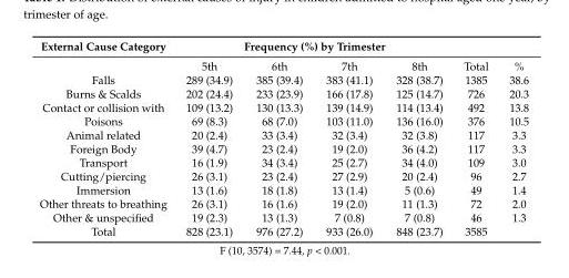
<table><thead><tr><td rowspan="2">External Cause Category</td><td colspan="4">Frequency (%) by Trimester</td><td rowspan="2">Total</td><td rowspan="2">%</td></tr><tr><td>5th</td><td>6th</td><td>7th</td><td>8th</td></tr></thead><tbody><tr><td>Falls</td><td>289 (34.9)</td><td>385 (39.4)</td><td>383 (41.1)</td><td>328 (38.7)</td><td>1385</td><td>38.6</td></tr><tr><td>Burns &amp; Scalds</td><td>202 (24.4)</td><td>233 (23.9)</td><td>166 (17.8)</td><td>125 (14.7)</td><td>726</td><td>20.3</td></tr><tr><td>Contact or collision with</td><td>109 (13.2)</td><td>130 (13.3)</td><td>139 (14.9)</td><td>114 (13.4)</td><td>492</td><td>13.8</td></tr><tr><td>Poisons</td><td>69 (8.3)</td><td>68 (7.0)</td><td>103 (11.0)</td><td>136 (16.0)</td><td>376</td><td>10.5</td></tr><tr><td>Animal related</td><td>20 (2.4)</td><td>33 (3.4)</td><td>32 (3.4)</td><td>32 (3.8)</td><td>117</td><td>3.3</td></tr><tr><td>Foreign Body</td><td>39 (4.7)</td><td>23 (2.4)</td><td>19 (2.0)</td><td>36 (4.2)</td><td>117</td><td>3.3</td></tr><tr><td>Transport</td><td>16 (1.9)</td><td>34 (3.4)</td><td>25 (2.7)</td><td>34 (4.0)</td><td>109</td><td>3.0</td></tr><tr><td>Cutting/piercing</td><td>26 (3.1)</td><td>23 (2.4)</td><td>27 (2.9)</td><td>20 (2.4)</td><td>96</td><td>2.7</td></tr><tr><td>Immersion</td><td>13 (1.6)</td><td>18 (1.8)</td><td>13 (1.4)</td><td>5 (0.6)</td><td>49</td><td>1.4</td></tr><tr><td>Other threats to breathing</td><td>26 (3.1)</td><td>16 (1.6)</td><td>19 (2.0)</td><td>11 (1.3)</td><td>72</td><td>2.0</td></tr><tr><td>Other &amp; unspecified</td><td>19 (2.3)</td><td>13 (1.3)</td><td>7 (0.8)</td><td>7 (0.8)</td><td>46</td><td>1.3</td></tr><tr><td>Total</td><td>828 (23.1)</td><td>976 (27.2)</td><td>933 (26.0)</td><td>848 (23.7)</td><td>3585</td><td></td></tr></tbody></table>